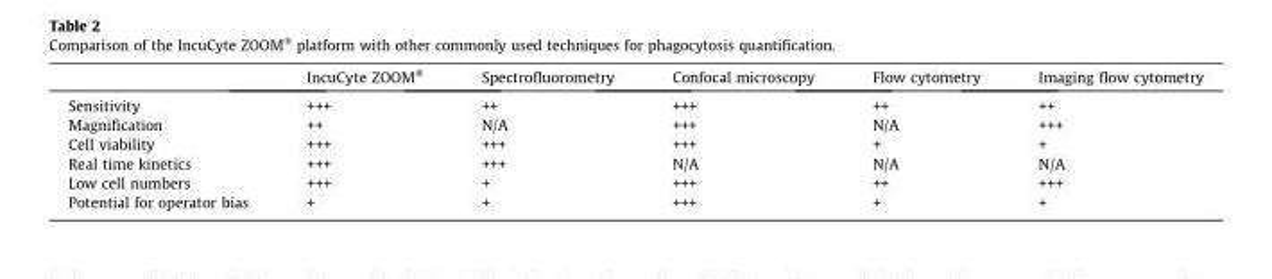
<table><thead><tr><td></td><td>IncuCyte ZOOM®</td><td>Spectrofluorometry</td><td>Confocal microscopy</td><td>Flow cytometry</td><td>Imaging flow cytometry</td></tr></thead><tbody><tr><td>Sensitivity</td><td>+++</td><td>++</td><td>+++</td><td>++</td><td>++</td></tr><tr><td>Magnification</td><td>++</td><td>N/A</td><td>+++</td><td>N/A</td><td>+++</td></tr><tr><td>Cell viability</td><td>+++</td><td>+++</td><td>+++</td><td>+</td><td>+</td></tr><tr><td>Real time kinetics</td><td>+++</td><td>+++</td><td>N/A</td><td>N/A</td><td>N/A</td></tr><tr><td>Low cell numbers</td><td>+++</td><td>+</td><td>+++</td><td>++</td><td>+++</td></tr><tr><td>Potential for operator bias</td><td>+</td><td>+</td><td>+++</td><td>+</td><td>+</td></tr></tbody></table>